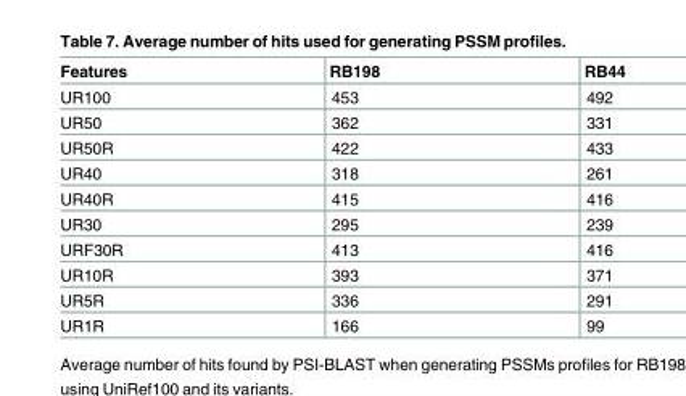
<table><thead><tr><td>Features</td><td>RB198</td><td>RB44</td></tr></thead><tbody><tr><td>UR100</td><td>453</td><td>492</td></tr><tr><td>UR50</td><td>362</td><td>331</td></tr><tr><td>UR50R</td><td>422</td><td>433</td></tr><tr><td>UR40</td><td>318</td><td>261</td></tr><tr><td>UR40R</td><td>415</td><td>416</td></tr><tr><td>UR30</td><td>295</td><td>239</td></tr><tr><td>URF30R</td><td>413</td><td>416</td></tr><tr><td>UR10R</td><td>393</td><td>371</td></tr><tr><td>UR5R</td><td>336</td><td>291</td></tr><tr><td>UR1R</td><td>166</td><td>99</td></tr></tbody></table>